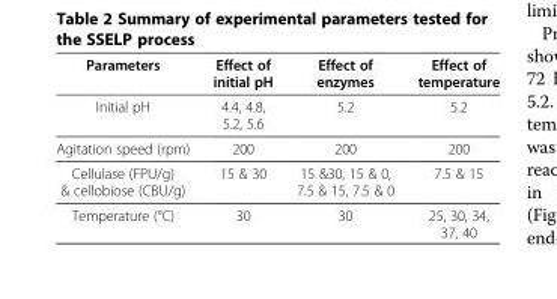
<table><thead><tr><td>Parameters</td><td>Effect of initial pH</td><td>Effect of enzymes</td><td>Effect of temperature</td></tr></thead><tbody><tr><td>Initial pH</td><td>4.4, 4.8, 5.2, 5.6</td><td>5.2</td><td>5.2</td></tr><tr><td>Agitation speed (rpm)</td><td>200</td><td>200</td><td>200</td></tr><tr><td>Cellulase (FPU/g) &amp; cellobiose (CBU/g)</td><td>15 &amp; 30</td><td>15 &amp;30, 15 &amp; 0, 7.5 &amp; 15, 7.5 &amp; 0</td><td>7.5 &amp; 15</td></tr><tr><td>Temperature (°C)</td><td>30</td><td>30</td><td>25, 30, 34, 37, 40</td></tr></tbody></table>